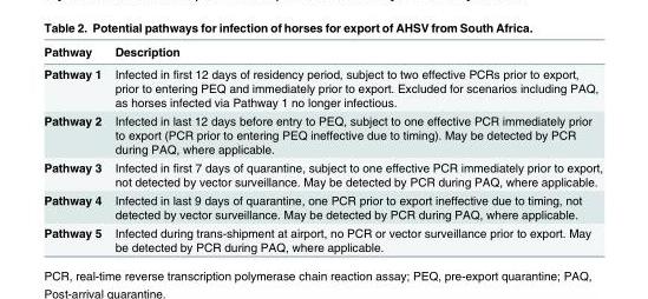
<table><thead><tr><td>Pathway</td><td>Description</td></tr></thead><tbody><tr><td>Pathway 1</td><td>Infected in first 12 days of residency period, subject to two effective PCRs prior to export, prior to entering PEQ and immediately prior to export. Excluded for scenarios including PAQ, as horses infected via Pathway 1 no longer infectious.</td></tr><tr><td>Pathway 2</td><td>Infected in last 12 days before entry to PEQ, subject to one effective PCR immediately prior to export (PCR prior to entering PEQ ineffective due to timing). May be detected by PCR during PAQ, where applicable.</td></tr><tr><td>Pathway 3</td><td>Infected in first 7 days of quarantine, subject to one effective PCR immediately prior to export, not detected by vector surveillance. May be detected by PCR during PAQ, where applicable.</td></tr><tr><td>Pathway 4</td><td>Infected in last 9 days of quarantine, one PCR prior to export ineffective due to timing, not detected by vector surveillance. May be detected by PCR during PAQ, where applicable.</td></tr><tr><td>Pathway 5</td><td>Infected during trans-shipment at airport, no PCR or vector surveillance prior to export. May be detected by PCR during PAQ, where applicable.</td></tr></tbody></table>